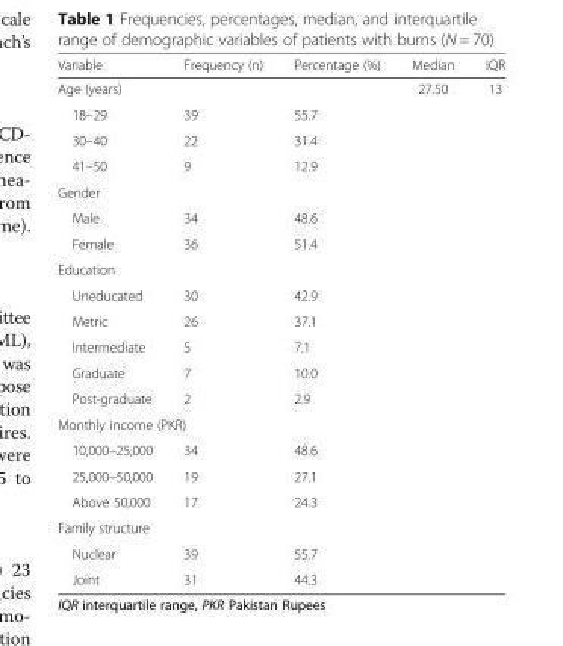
<table><thead><tr><td>Variable</td><td>Frequency (n)</td><td>Percentage (%)</td><td>Median</td><td>IQR</td></tr></thead><tbody><tr><td>Age (years)</td><td></td><td></td><td>27.50</td><td>13</td></tr><tr><td>18–29</td><td>39</td><td>55.7</td><td></td><td></td></tr><tr><td>30–40</td><td>22</td><td>31.4</td><td></td><td></td></tr><tr><td>41–50</td><td>9</td><td>12.9</td><td></td><td></td></tr><tr><td colspan="5">Gender</td></tr><tr><td>Male</td><td>34</td><td>48.6</td><td></td><td></td></tr><tr><td>Female</td><td>36</td><td>51.4</td><td></td><td></td></tr><tr><td colspan="5">Education</td></tr><tr><td>Uneducated</td><td>30</td><td>42.9</td><td></td><td></td></tr><tr><td>Metric</td><td>26</td><td>37.1</td><td></td><td></td></tr><tr><td>Intermediate</td><td>5</td><td>7.1</td><td></td><td></td></tr><tr><td>Graduate</td><td>7</td><td>10.0</td><td></td><td></td></tr><tr><td>Post-graduate</td><td>2</td><td>2.9</td><td></td><td></td></tr><tr><td colspan="5">Monthly income (PKR)</td></tr><tr><td>10,000–25,000</td><td>34</td><td>48.6</td><td></td><td></td></tr><tr><td>25,000–50,000</td><td>19</td><td>27.1</td><td></td><td></td></tr><tr><td>Above 50,000</td><td>17</td><td>24.3</td><td></td><td></td></tr><tr><td colspan="5">Family structure</td></tr><tr><td>Nuclear</td><td>39</td><td>55.7</td><td></td><td></td></tr><tr><td>Joint</td><td>31</td><td>44.3</td><td></td><td></td></tr></tbody></table>